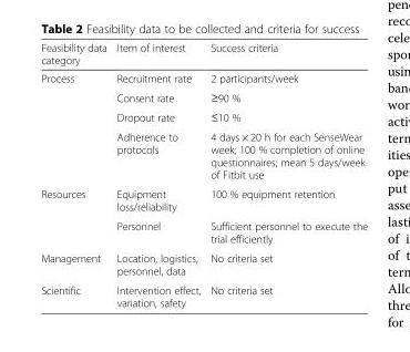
<table><thead><tr><td>Feasibility data category</td><td>Item of interest</td><td>Success criteria</td></tr></thead><tbody><tr><td rowspan="4">Process</td><td>Recruitment rate</td><td>2 participants/week</td></tr><tr><td>Consent rate</td><td>≥90 %</td></tr><tr><td>Dropout rate</td><td>≤10 %</td></tr><tr><td>Adherence to protocols</td><td>4 days × 20 h for each SenseWear week; 100 % completion of online questionnaires; mean 5 days/week of Fitbit use</td></tr><tr><td rowspan="2">Resources</td><td>Equipment loss/reliability</td><td>100 % equipment retention</td></tr><tr><td>Personnel</td><td>Sufficient personnel to execute the trial efficiently</td></tr><tr><td>Management</td><td>Location, logistics, personnel, data</td><td>No criteria set</td></tr><tr><td>Scientific</td><td>Intervention effect, variation, safety</td><td>No criteria set</td></tr></tbody></table>